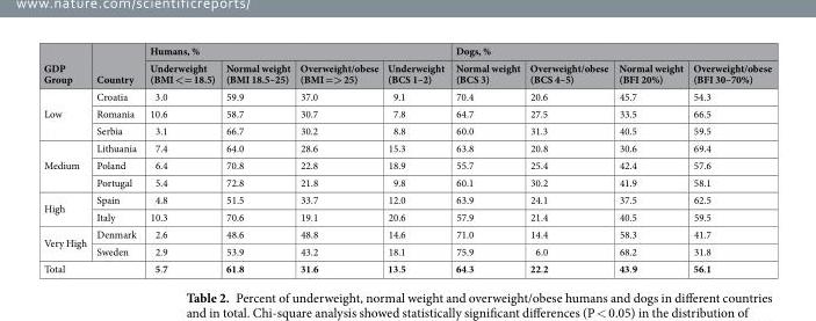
<table><thead><tr><td rowspan="2">GDP Group</td><td rowspan="2">Country</td><td colspan="4">Humans, %</td><td colspan="4">Dogs, %</td></tr><tr><td>Underweight (BMI &lt;= 18.5)</td><td>Normal weight (BMI 18.5–25)</td><td>Overweight/obese (BMI =&gt; 25)</td><td>Underweight (BCS 1–2)</td><td>Normal weight (BCS 3)</td><td>Overweight/obese (BCS 4–5)</td><td>Normal weight (BFI 20%)</td><td>Overweight/obese (BFI 30–70%)</td></tr></thead><tbody><tr><td rowspan="3">Low</td><td>Croatia</td><td>3.0</td><td>59.9</td><td>37.0</td><td>9.1</td><td>70.4</td><td>20.6</td><td>45.7</td><td>54.3</td></tr><tr><td>Romania</td><td>10.6</td><td>58.7</td><td>30.7</td><td>7.8</td><td>64.7</td><td>27.5</td><td>33.5</td><td>66.5</td></tr><tr><td>Serbia</td><td>3.1</td><td>66.7</td><td>30.2</td><td>8.8</td><td>60.0</td><td>31.3</td><td>40.5</td><td>59.5</td></tr><tr><td rowspan="3">Medium</td><td>Lithuania</td><td>7.4</td><td>64.0</td><td>28.6</td><td>15.3</td><td>63.8</td><td>20.8</td><td>30.6</td><td>69.4</td></tr><tr><td>Poland</td><td>6.4</td><td>70.8</td><td>22.8</td><td>18.9</td><td>55.7</td><td>25.4</td><td>42.4</td><td>57.6</td></tr><tr><td>Portugal</td><td>5.4</td><td>72.8</td><td>21.8</td><td>9.8</td><td>60.1</td><td>30.2</td><td>41.9</td><td>58.1</td></tr><tr><td rowspan="2">High</td><td>Spain</td><td>4.8</td><td>51.5</td><td>33.7</td><td>12.0</td><td>63.9</td><td>24.1</td><td>37.5</td><td>62.5</td></tr><tr><td>Italy</td><td>10.3</td><td>70.6</td><td>19.1</td><td>20.6</td><td>57.9</td><td>21.4</td><td>40.5</td><td>59.5</td></tr><tr><td rowspan="2">Very High</td><td>Denmark</td><td>2.6</td><td>48.6</td><td>48.8</td><td>14.6</td><td>71.0</td><td>14.4</td><td>58.3</td><td>41.7</td></tr><tr><td>Sweden</td><td>2.9</td><td>53.9</td><td>43.2</td><td>18.1</td><td>75.9</td><td>6.0</td><td>68.2</td><td>31.8</td></tr><tr><td colspan="2">Total</td><td>5.7</td><td>61.8</td><td>31.6</td><td>13.5</td><td>64.3</td><td>22.2</td><td>43.9</td><td>56.1</td></tr></tbody></table>